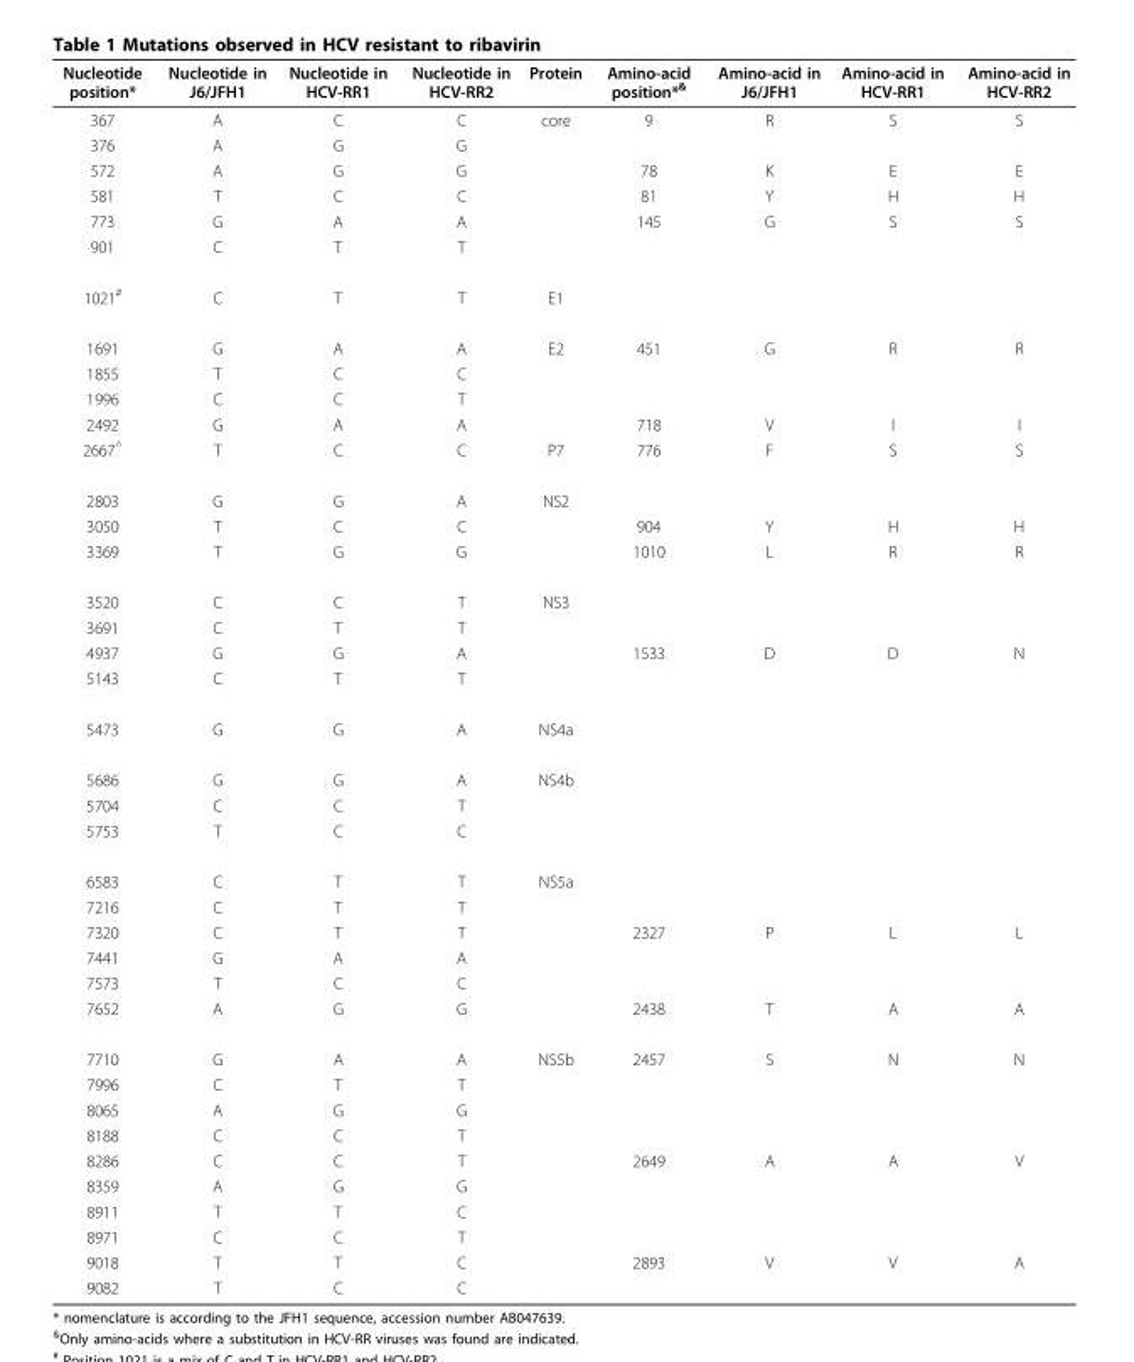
<table><thead><tr><td>Nucleotide position*</td><td>Nucleotide in J6/JFH1</td><td>Nucleotide in HCV-RR1</td><td>Nucleotide in HCV-RR2</td><td>Protein</td><td>Amino-acid position*<sup>&amp;</sup></td><td>Amino-acid in J6/JFH1</td><td>Amino-acid in HCV-RR1</td><td>Amino-acid in HCV-RR2</td></tr></thead><tbody><tr><td>367</td><td>A</td><td>C</td><td>C</td><td>core</td><td>9</td><td>R</td><td>S</td><td>S</td></tr><tr><td>376</td><td>A</td><td>G</td><td>G</td><td></td><td></td><td></td><td></td><td></td></tr><tr><td>572</td><td>A</td><td>G</td><td>G</td><td></td><td>78</td><td>K</td><td>E</td><td>E</td></tr><tr><td>581</td><td>T</td><td>C</td><td>C</td><td></td><td>81</td><td>Y</td><td>H</td><td>H</td></tr><tr><td>773</td><td>G</td><td>A</td><td>A</td><td></td><td>145</td><td>G</td><td>S</td><td>S</td></tr><tr><td>901</td><td>C</td><td>T</td><td>T</td><td></td><td></td><td></td><td></td><td></td></tr><tr><td>1021<sup>#</sup></td><td>C</td><td>T</td><td>T</td><td>E1</td><td></td><td></td><td></td><td></td></tr><tr><td>1691</td><td>G</td><td>A</td><td>A</td><td>E2</td><td>451</td><td>G</td><td>R</td><td>R</td></tr><tr><td>1855</td><td>T</td><td>C</td><td>C</td><td></td><td></td><td></td><td></td><td></td></tr><tr><td>1996</td><td>C</td><td>C</td><td>T</td><td></td><td></td><td></td><td></td><td></td></tr><tr><td>2492</td><td>G</td><td>A</td><td>A</td><td></td><td>718</td><td>V</td><td>I</td><td>I</td></tr><tr><td>2667<sup>^</sup></td><td>T</td><td>C</td><td>C</td><td>P7</td><td>776</td><td>F</td><td>S</td><td>S</td></tr><tr><td>2803</td><td>G</td><td>G</td><td>A</td><td>NS2</td><td></td><td></td><td></td><td></td></tr><tr><td>3050</td><td>T</td><td>C</td><td>C</td><td></td><td>904</td><td>Y</td><td>H</td><td>H</td></tr><tr><td>3369</td><td>T</td><td>G</td><td>G</td><td></td><td>1010</td><td>L</td><td>R</td><td>R</td></tr><tr><td>3520</td><td>C</td><td>C</td><td>T</td><td>NS3</td><td></td><td></td><td></td><td></td></tr><tr><td>3691</td><td>C</td><td>T</td><td>T</td><td></td><td></td><td></td><td></td><td></td></tr><tr><td>4937</td><td>G</td><td>G</td><td>A</td><td></td><td>1533</td><td>D</td><td>D</td><td>N</td></tr><tr><td>5143</td><td>C</td><td>T</td><td>T</td><td></td><td></td><td></td><td></td><td></td></tr><tr><td>5473</td><td>G</td><td>G</td><td>A</td><td>NS4a</td><td></td><td></td><td></td><td></td></tr><tr><td>5686</td><td>G</td><td>G</td><td>A</td><td>NS4b</td><td></td><td></td><td></td><td></td></tr><tr><td>5704</td><td>C</td><td>C</td><td>T</td><td></td><td></td><td></td><td></td><td></td></tr><tr><td>5753</td><td>T</td><td>C</td><td>C</td><td></td><td></td><td></td><td></td><td></td></tr><tr><td>6583</td><td>C</td><td>T</td><td>T</td><td>NS5a</td><td></td><td></td><td></td><td></td></tr><tr><td>7216</td><td>C</td><td>T</td><td>T</td><td></td><td></td><td></td><td></td><td></td></tr><tr><td>7320</td><td>C</td><td>T</td><td>T</td><td></td><td>2327</td><td>P</td><td>L</td><td>L</td></tr><tr><td>7441</td><td>G</td><td>A</td><td>A</td><td></td><td></td><td></td><td></td><td></td></tr><tr><td>7573</td><td>T</td><td>C</td><td>C</td><td></td><td></td><td></td><td></td><td></td></tr><tr><td>7652</td><td>A</td><td>G</td><td>G</td><td></td><td>2438</td><td>T</td><td>A</td><td>A</td></tr><tr><td>7710</td><td>G</td><td>A</td><td>A</td><td>NS5b</td><td>2457</td><td>S</td><td>N</td><td>N</td></tr><tr><td>7996</td><td>C</td><td>T</td><td>T</td><td></td><td></td><td></td><td></td><td></td></tr><tr><td>8065</td><td>A</td><td>G</td><td>G</td><td></td><td></td><td></td><td></td><td></td></tr><tr><td>8188</td><td>C</td><td>C</td><td>T</td><td></td><td></td><td></td><td></td><td></td></tr><tr><td>8286</td><td>C</td><td>C</td><td>T</td><td></td><td>2649</td><td>A</td><td>A</td><td>V</td></tr><tr><td>8359</td><td>A</td><td>G</td><td>G</td><td></td><td></td><td></td><td></td><td></td></tr><tr><td>8911</td><td>T</td><td>T</td><td>C</td><td></td><td></td><td></td><td></td><td></td></tr><tr><td>8971</td><td>C</td><td>C</td><td>T</td><td></td><td></td><td></td><td></td><td></td></tr><tr><td>9018</td><td>T</td><td>T</td><td>C</td><td></td><td>2893</td><td>V</td><td>V</td><td>A</td></tr><tr><td>9082</td><td>T</td><td>C</td><td>C</td><td></td><td></td><td></td><td></td><td></td></tr></tbody></table>